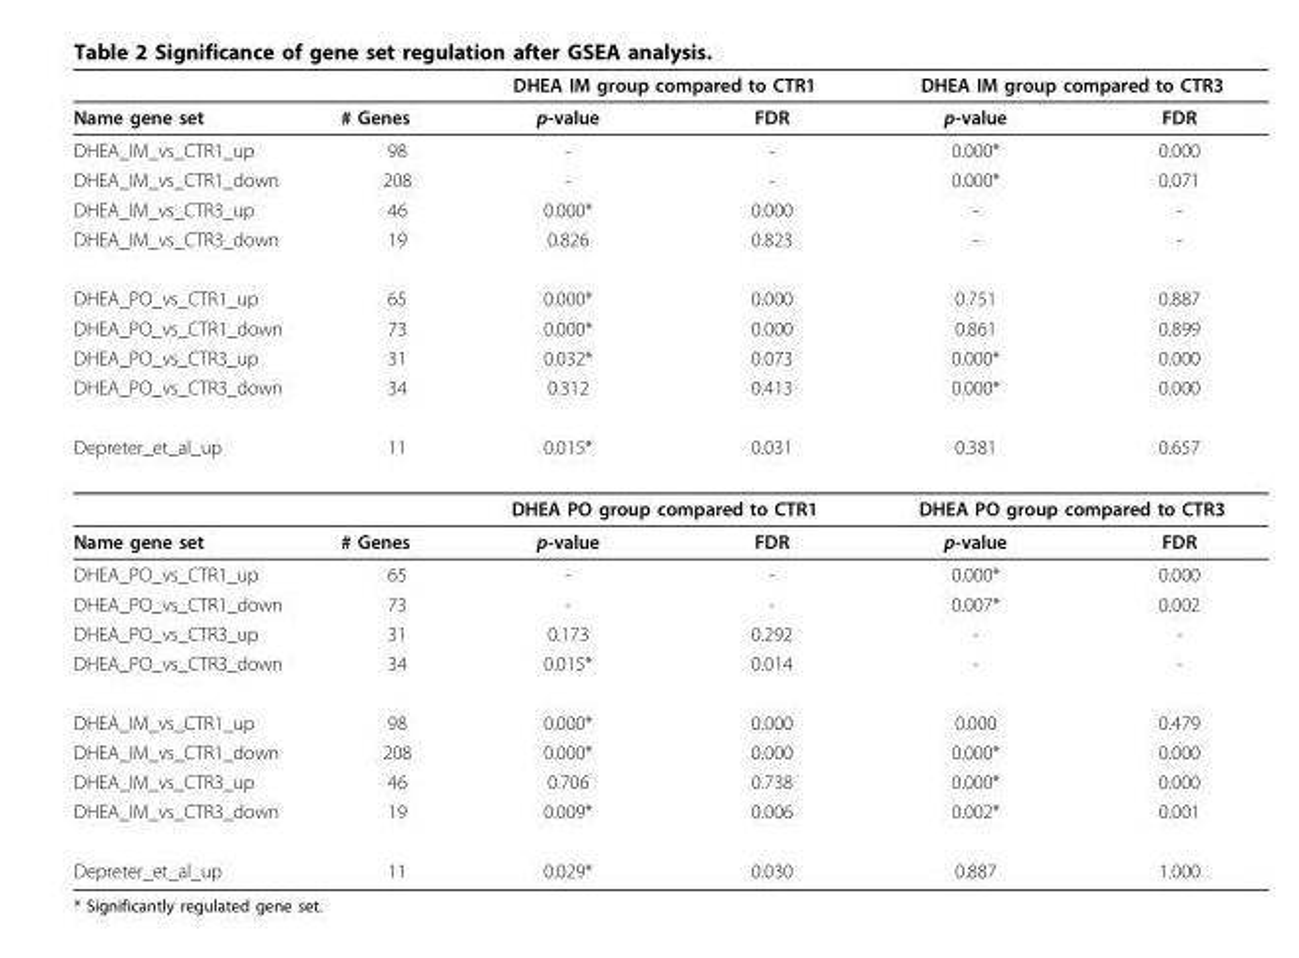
<table><thead><tr><td rowspan="2">Name gene set</td><td rowspan="2"># Genes</td><td colspan="2">DHEA IM group compared to CTR1</td><td colspan="2">DHEA IM group compared to CTR3</td></tr><tr><td>p-value</td><td>FDR</td><td>p-value</td><td>FDR</td></tr></thead><tbody><tr><td>DHEA_IM_vs_CTR1_up</td><td>98</td><td>-</td><td>-</td><td>0.000*</td><td>0.000</td></tr><tr><td>DHEA_IM_vs_CTR1_down</td><td>208</td><td>-</td><td>-</td><td>0.000*</td><td>0.071</td></tr><tr><td>DHEA_IM_vs_CTR3_up</td><td>46</td><td>0.000*</td><td>0.000</td><td>-</td><td>-</td></tr><tr><td>DHEA_IM_vs_CTR3_down</td><td>19</td><td>0.826</td><td>0.823</td><td>-</td><td>-</td></tr><tr><td>DHEA_PO_vs_CTR1_up</td><td>65</td><td>0.000*</td><td>0.000</td><td>0.751</td><td>0.887</td></tr><tr><td>DHEA_PO_vs_CTR1_down</td><td>73</td><td>0.000*</td><td>0.000</td><td>0.861</td><td>0.899</td></tr><tr><td>DHEA_PO_vs_CTR3_up</td><td>31</td><td>0.032*</td><td>0.073</td><td>0.000*</td><td>0.000</td></tr><tr><td>DHEA_PO_vs_CTR3_down</td><td>34</td><td>0.312</td><td>0.413</td><td>0.000*</td><td>0.000</td></tr><tr><td rowspan="2">Depreter_et_al_up</td><td>11</td><td>0.015*</td><td>0.031</td><td>0.381</td><td>0.657</td></tr><tr><td></td><td colspan="2">DHEA PO group compared to CTR1</td><td colspan="2">DHEA PO group compared to CTR3</td></tr><tr><td>Name gene set</td><td># Genes</td><td>p-value</td><td>FDR</td><td>p-value</td><td>FDR</td></tr><tr><td>DHEA_PO_vs_CTR1_up</td><td>65</td><td>-</td><td>-</td><td>0.000*</td><td>0.000</td></tr><tr><td>DHEA_PO_vs_CTR1_down</td><td>73</td><td>-</td><td>-</td><td>0.007*</td><td>0.002</td></tr><tr><td>DHEA_PO_vs_CTR3_up</td><td>31</td><td>0.173</td><td>0.292</td><td>-</td><td>-</td></tr><tr><td>DHEA_PO_vs_CTR3_down</td><td>34</td><td>0.015*</td><td>0.014</td><td>-</td><td>-</td></tr><tr><td>DHEA_IM_vs_CTR1_up</td><td>98</td><td>0.000*</td><td>0.000</td><td>0.000</td><td>0.479</td></tr><tr><td>DHEA_IM_vs_CTR1_down</td><td>208</td><td>0.000*</td><td>0.000</td><td>0.000*</td><td>0.000</td></tr><tr><td>DHEA_IM_vs_CTR3_up</td><td>46</td><td>0.706</td><td>0.738</td><td>0.000*</td><td>0.000</td></tr><tr><td>DHEA_IM_vs_CTR3_down</td><td>19</td><td>0.009*</td><td>0.006</td><td>0.002*</td><td>0.001</td></tr><tr><td>Depreter_et_al_up</td><td>11</td><td>0.029*</td><td>0.030</td><td>0.887</td><td>1.000</td></tr></tbody></table>